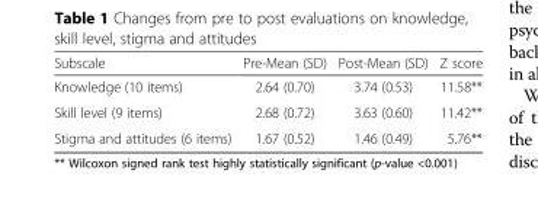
<table><thead><tr><td>Subscale</td><td>Pre-Mean (SD)</td><td>Post-Mean (SD)</td><td>Z score</td></tr></thead><tbody><tr><td>Knowledge (10 items)</td><td>2.64 (0.70)</td><td>3.74 (0.53)</td><td>11.58**</td></tr><tr><td>Skill level (9 items)</td><td>2.68 (0.72)</td><td>3.63 (0.60)</td><td>11.42**</td></tr><tr><td>Stigma and attitudes (6 items)</td><td>1.67 (0.52)</td><td>1.46 (0.49)</td><td>5.76**</td></tr></tbody></table>